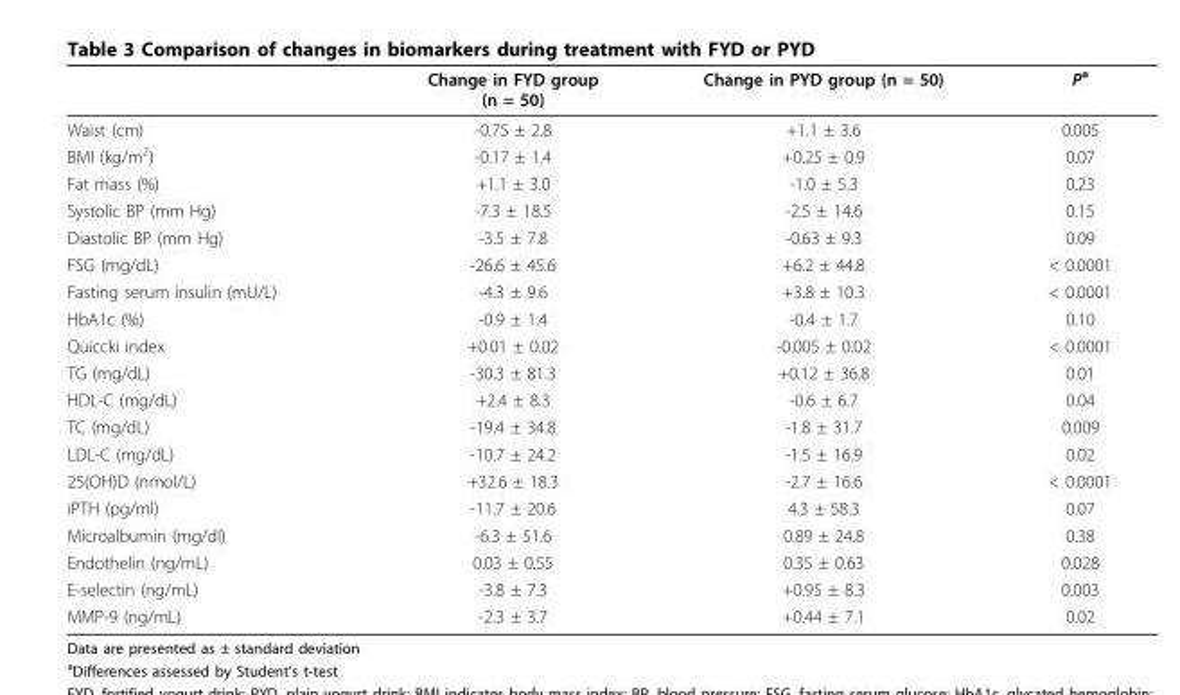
<table><thead><tr><td></td><td>Change in FYD group (n = 50)</td><td>Change in PYD group (n = 50)</td><td>P<sup>a</sup></td></tr></thead><tbody><tr><td>Waist (cm)</td><td>-0.75 ± 2.8</td><td>+1.1 ± 3.6</td><td>0.005</td></tr><tr><td>BMI (kg/m<sup>2</sup>)</td><td>-0.17 ± 1.4</td><td>+0.25 ± 0.9</td><td>0.07</td></tr><tr><td>Fat mass (%)</td><td>+1.1 ± 3.0</td><td>-1.0 ± 5.3</td><td>0.23</td></tr><tr><td>Systolic BP (mm Hg)</td><td>-7.3 ± 18.5</td><td>-2.5 ± 14.6</td><td>0.15</td></tr><tr><td>Diastolic BP (mm Hg)</td><td>-3.5 ± 7.8</td><td>-0.63 ± 9.3</td><td>0.09</td></tr><tr><td>FSG (mg/dL)</td><td>-26.6 ± 45.6</td><td>+6.2 ± 44.8</td><td>&lt; 0.0001</td></tr><tr><td>Fasting serum insulin (mU/L)</td><td>-4.3 ± 9.6</td><td>+3.8 ± 10.3</td><td>&lt; 0.0001</td></tr><tr><td>HbA1c (%)</td><td>-0.9 ± 1.4</td><td>-0.4 ± 1.7</td><td>0.10</td></tr><tr><td>Quiccki index</td><td>+0.01 ± 0.02</td><td>-0.005 ± 0.02</td><td>&lt; 0.0001</td></tr><tr><td>TG (mg/dL)</td><td>-30.3 ± 81.3</td><td>+0.12 ± 36.8</td><td>0.01</td></tr><tr><td>HDL-C (mg/dL)</td><td>+2.4 ± 8.3</td><td>-0.6 ± 6.7</td><td>0.04</td></tr><tr><td>TC (mg/dL)</td><td>-19.4 ± 34.8</td><td>-1.8 ± 31.7</td><td>0.009</td></tr><tr><td>LDL-C (mg/dL)</td><td>-10.7 ± 24.2</td><td>-1.5 ± 16.9</td><td>0.02</td></tr><tr><td>25(OH)D (nmol/L)</td><td>+32.6 ± 18.3</td><td>-2.7 ± 16.6</td><td>&lt; 0.0001</td></tr><tr><td>iPTH (pg/ml)</td><td>-11.7 ± 20.6</td><td>4.3 ± 58.3</td><td>0.07</td></tr><tr><td>Microalbumin (mg/dl)</td><td>-6.3 ± 51.6</td><td>0.89 ± 24.8</td><td>0.38</td></tr><tr><td>Endothelin (ng/mL)</td><td>0.03 ± 0.55</td><td>0.35 ± 0.63</td><td>0.028</td></tr><tr><td>E-selectin (ng/mL)</td><td>-3.8 ± 7.3</td><td>+0.95 ± 8.3</td><td>0.003</td></tr><tr><td>MMP-9 (ng/mL)</td><td>-2.3 ± 3.7</td><td>+0.44 ± 7.1</td><td>0.02</td></tr></tbody></table>